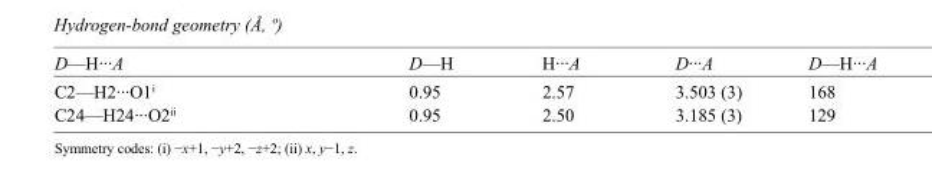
<table><tbody><tr><td>D—H···A</td><td>D—H</td><td>H···A</td><td>D···A</td><td>D—H···A</td></tr><tr><td>C2—H2···O1<sup>i</sup></td><td>0.95</td><td>2.57</td><td>3.503 (3)</td><td>168</td></tr><tr><td>C24—H24···O2<sup>ii</sup></td><td>0.95</td><td>2.50</td><td>3.185 (3)</td><td>129</td></tr></tbody></table>